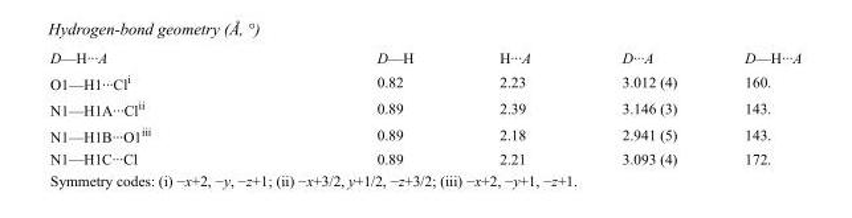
<table><tbody><tr><td>D—H···A</td><td>D—H</td><td>H···A</td><td>D···A</td><td>D—H···A</td></tr><tr><td>O1—H1···Cl<sup>i</sup></td><td>0.82</td><td>2.23</td><td>3.012 (4)</td><td>160.</td></tr><tr><td>N1—H1A···Cl<sup>ii</sup></td><td>0.89</td><td>2.39</td><td>3.146 (3)</td><td>143.</td></tr><tr><td>N1—H1B···O1<sup>iii</sup></td><td>0.89</td><td>2.18</td><td>2.941 (5)</td><td>143.</td></tr><tr><td>N1—H1C···Cl</td><td>0.89</td><td>2.21</td><td>3.093 (4)</td><td>172.</td></tr></tbody></table>